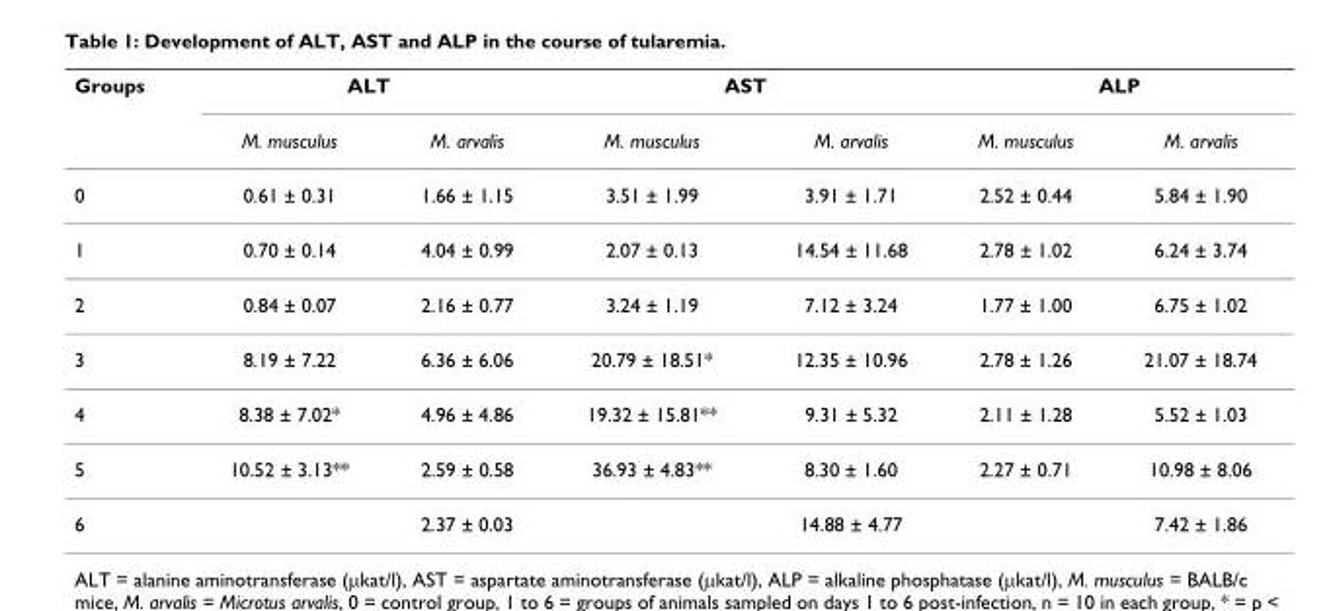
<table><thead><tr><td rowspan="2">Groups</td><td colspan="2">ALT</td><td colspan="2">AST</td><td colspan="2">ALP</td></tr><tr><td>M. musculus</td><td>M. arvalis</td><td>M. musculus</td><td>M. arvalis</td><td>M. musculus</td><td>M. arvalis</td></tr></thead><tbody><tr><td>0</td><td>0.61 ± 0.31</td><td>1.66 ± 1.15</td><td>3.51 ± 1.99</td><td>3.91 ± 1.71</td><td>2.52 ± 0.44</td><td>5.84 ± 1.90</td></tr><tr><td>1</td><td>0.70 ± 0.14</td><td>4.04 ± 0.99</td><td>2.07 ± 0.13</td><td>14.54 ± 11.68</td><td>2.78 ± 1.02</td><td>6.24 ± 3.74</td></tr><tr><td>2</td><td>0.84 ± 0.07</td><td>2.16 ± 0.77</td><td>3.24 ± 1.19</td><td>7.12 ± 3.24</td><td>1.77 ± 1.00</td><td>6.75 ± 1.02</td></tr><tr><td>3</td><td>8.19 ± 7.22</td><td>6.36 ± 6.06</td><td>20.79 ± 18.51*</td><td>12.35 ± 10.96</td><td>2.78 ± 1.26</td><td>21.07 ± 18.74</td></tr><tr><td>4</td><td>8.38 ± 7.02*</td><td>4.96 ± 4.86</td><td>19.32 ± 15.81**</td><td>9.31 ± 5.32</td><td>2.11 ± 1.28</td><td>5.52 ± 1.03</td></tr><tr><td>5</td><td>10.52 ± 3.13**</td><td>2.59 ± 0.58</td><td>36.93 ± 4.83**</td><td>8.30 ± 1.60</td><td>2.27 ± 0.71</td><td>10.98 ± 8.06</td></tr><tr><td>6</td><td></td><td>2.37 ± 0.03</td><td></td><td>14.88 ± 4.77</td><td></td><td>7.42 ± 1.86</td></tr></tbody></table>